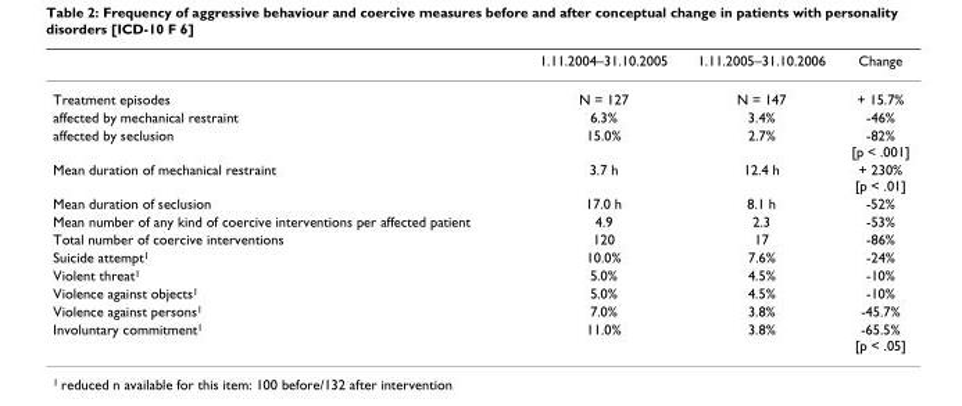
<table><thead><tr><td></td><td>1.11.2004–31.10.2005</td><td>1.11.2005–31.10.2006</td><td>Change</td></tr></thead><tbody><tr><td>Treatment episodes</td><td>N = 127</td><td>N = 147</td><td>+ 15.7%</td></tr><tr><td>affected by mechanical restraint</td><td>6.3%</td><td>3.4%</td><td>-46%</td></tr><tr><td>affected by seclusion</td><td>15.0%</td><td>2.7%</td><td>-82% [p &lt; .001]</td></tr><tr><td>Mean duration of mechanical restraint</td><td>3.7 h</td><td>12.4 h</td><td>+ 230% [p &lt; .01]</td></tr><tr><td>Mean duration of seclusion</td><td>17.0 h</td><td>8.1 h</td><td>-52%</td></tr><tr><td>Mean number of any kind of coercive interventions per affected patient</td><td>4.9</td><td>2.3</td><td>-53%</td></tr><tr><td>Total number of coercive interventions</td><td>120</td><td>17</td><td>-86%</td></tr><tr><td>Suicide attempt<sup>1</sup></td><td>10.0%</td><td>7.6%</td><td>-24%</td></tr><tr><td>Violent threat<sup>1</sup></td><td>5.0%</td><td>4.5%</td><td>-10%</td></tr><tr><td>Violence against objects<sup>1</sup></td><td>5.0%</td><td>4.5%</td><td>-10%</td></tr><tr><td>Violence against persons<sup>1</sup></td><td>7.0%</td><td>3.8%</td><td>-45.7%</td></tr><tr><td>Involuntary commitment<sup>1</sup></td><td>11.0%</td><td>3.8%</td><td>-65.5% [p &lt; .05]</td></tr></tbody></table>